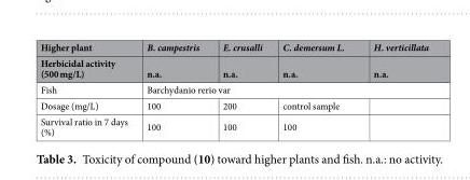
<table><thead><tr><td rowspan="2">Higher plant Herbicidal activity (500 mg/L)</td><td rowspan="2">B. campestris n.a.</td><td rowspan="2">E. crusalli n.a.</td><td rowspan="2">C. demersum L. n.a.</td><td rowspan="2">H. verticillata n.a.</td></tr><tr></tr></thead><tbody><tr><td>Fish</td><td colspan="4">Barchydanio rerio var</td></tr><tr><td>Dosage (mg/L)</td><td>100</td><td>200</td><td>control sample</td><td></td></tr><tr><td>Survival ratio in 7 days (%)</td><td>100</td><td>100</td><td>100</td><td></td></tr></tbody></table>